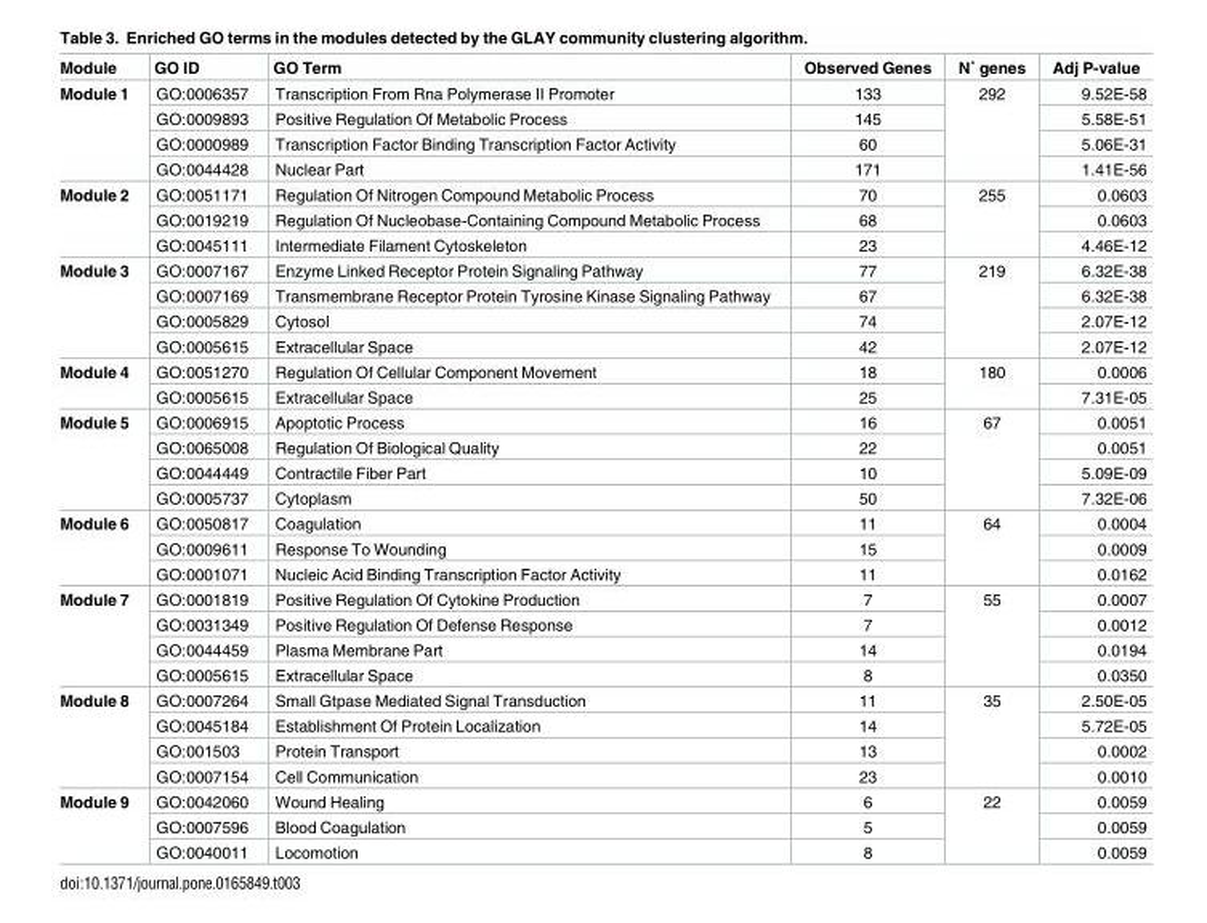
<table><thead><tr><td>Module</td><td>GO ID</td><td>GO Term</td><td>Observed Genes</td><td>N˚ genes</td><td>Adj P-value</td></tr></thead><tbody><tr><td rowspan="4">Module 1</td><td>GO:0006357</td><td>Transcription From Rna Polymerase II Promoter</td><td>133</td><td rowspan="4">292</td><td>9.52E-58</td></tr><tr><td>GO:0009893</td><td>Positive Regulation Of Metabolic Process</td><td>145</td><td>5.58E-51</td></tr><tr><td>GO:0000989</td><td>Transcription Factor Binding Transcription Factor Activity</td><td>60</td><td>5.06E-31</td></tr><tr><td>GO:0044428</td><td>Nuclear Part</td><td>171</td><td>1.41E-56</td></tr><tr><td rowspan="3">Module 2</td><td>GO:0051171</td><td>Regulation Of Nitrogen Compound Metabolic Process</td><td>70</td><td rowspan="3">255</td><td>0.0603</td></tr><tr><td>GO:0019219</td><td>Regulation Of Nucleobase-Containing Compound Metabolic Process</td><td>68</td><td>0.0603</td></tr><tr><td>GO:0045111</td><td>Intermediate Filament Cytoskeleton</td><td>23</td><td>4.46E-12</td></tr><tr><td rowspan="4">Module 3</td><td>GO:0007167</td><td>Enzyme Linked Receptor Protein Signaling Pathway</td><td>77</td><td rowspan="4">219</td><td>6.32E-38</td></tr><tr><td>GO:0007169</td><td>Transmembrane Receptor Protein Tyrosine Kinase Signaling Pathway</td><td>67</td><td>6.32E-38</td></tr><tr><td>GO:0005829</td><td>Cytosol</td><td>74</td><td>2.07E-12</td></tr><tr><td>GO:0005615</td><td>Extracellular Space</td><td>42</td><td>2.07E-12</td></tr><tr><td rowspan="2">Module 4</td><td>GO:0051270</td><td>Regulation Of Cellular Component Movement</td><td>18</td><td rowspan="2">180</td><td>0.0006</td></tr><tr><td>GO:0005615</td><td>Extracellular Space</td><td>25</td><td>7.31E-05</td></tr><tr><td rowspan="4">Module 5</td><td>GO:0006915</td><td>Apoptotic Process</td><td>16</td><td rowspan="4">67</td><td>0.0051</td></tr><tr><td>GO:0065008</td><td>Regulation Of Biological Quality</td><td>22</td><td>0.0051</td></tr><tr><td>GO:0044449</td><td>Contractile Fiber Part</td><td>10</td><td>5.09E-09</td></tr><tr><td>GO:0005737</td><td>Cytoplasm</td><td>50</td><td>7.32E-06</td></tr><tr><td rowspan="3">Module 6</td><td>GO:0050817</td><td>Coagulation</td><td>11</td><td rowspan="3">64</td><td>0.0004</td></tr><tr><td>GO:0009611</td><td>Response To Wounding</td><td>15</td><td>0.0009</td></tr><tr><td>GO:0001071</td><td>Nucleic Acid Binding Transcription Factor Activity</td><td>11</td><td>0.0162</td></tr><tr><td rowspan="4">Module 7</td><td>GO:0001819</td><td>Positive Regulation Of Cytokine Production</td><td>7</td><td rowspan="4">55</td><td>0.0007</td></tr><tr><td>GO:0031349</td><td>Positive Regulation Of Defense Response</td><td>7</td><td>0.0012</td></tr><tr><td>GO:0044459</td><td>Plasma Membrane Part</td><td>14</td><td>0.0194</td></tr><tr><td>GO:0005615</td><td>Extracellular Space</td><td>8</td><td>0.0350</td></tr><tr><td rowspan="4">Module 8</td><td>GO:0007264</td><td>Small Gtpase Mediated Signal Transduction</td><td>11</td><td rowspan="4">35</td><td>2.50E-05</td></tr><tr><td>GO:0045184</td><td>Establishment Of Protein Localization</td><td>14</td><td>5.72E-05</td></tr><tr><td>GO:001503</td><td>Protein Transport</td><td>13</td><td>0.0002</td></tr><tr><td>GO:0007154</td><td>Cell Communication</td><td>23</td><td>0.0010</td></tr><tr><td rowspan="3">Module 9</td><td>GO:0042060</td><td>Wound Healing</td><td>6</td><td rowspan="3">22</td><td>0.0059</td></tr><tr><td>GO:0007596</td><td>Blood Coagulation</td><td>5</td><td>0.0059</td></tr><tr><td>GO:0040011</td><td>Locomotion</td><td>8</td><td>0.0059</td></tr></tbody></table>